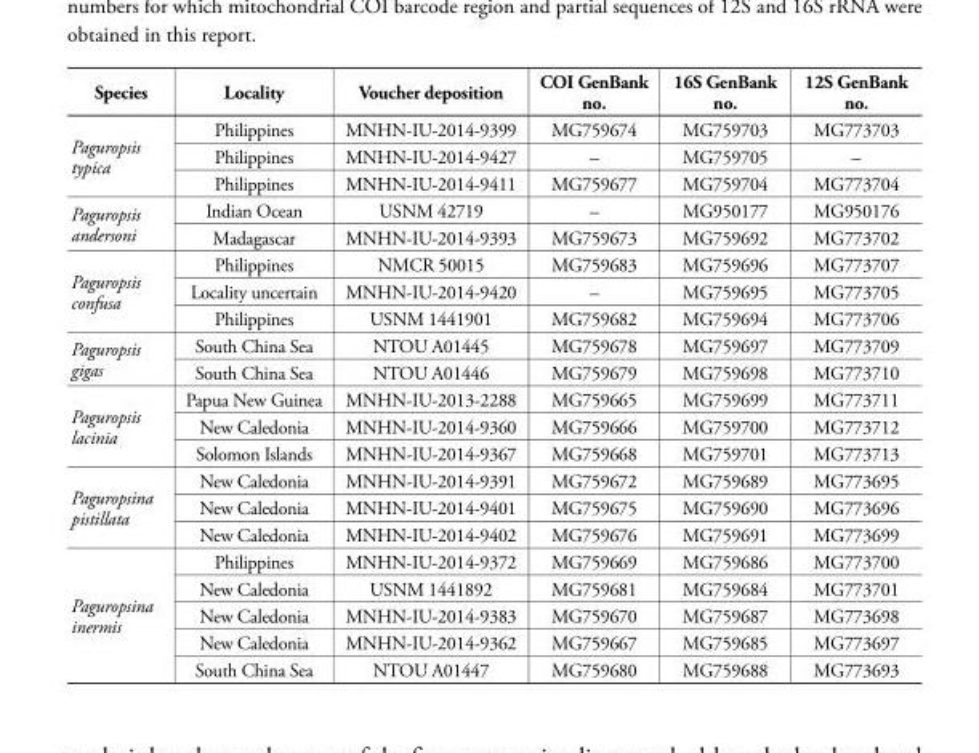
<table><thead><tr><td>Species</td><td>Locality</td><td>Voucher deposition</td><td>COI GenBank no.</td><td>16S GenBank no.</td><td>12S GenBank no.</td></tr></thead><tbody><tr><td rowspan="3">Paguropsis typica</td><td>Philippines</td><td>MNHN-IU-2014-9399</td><td>MG759674</td><td>MG759703</td><td>MG773703</td></tr><tr><td>Philippines</td><td>MNHN-IU-2014-9427</td><td>–</td><td>MG759705</td><td>–</td></tr><tr><td>Philippines</td><td>MNHN-IU-2014-9411</td><td>MG759677</td><td>MG759704</td><td>MG773704</td></tr><tr><td rowspan="2">Paguropsis andersoni</td><td>Indian Ocean</td><td>USNM 42719</td><td>–</td><td>MG950177</td><td>MG950176</td></tr><tr><td>Madagascar</td><td>MNHN-IU-2014-9393</td><td>MG759673</td><td>MG759692</td><td>MG773702</td></tr><tr><td rowspan="3">Paguropsis confusa</td><td>Philippines</td><td>NMCR 50015</td><td>MG759683</td><td>MG759696</td><td>MG773707</td></tr><tr><td>Locality uncertain</td><td>MNHN-IU-2014-9420</td><td>–</td><td>MG759695</td><td>MG773705</td></tr><tr><td>Philippines</td><td>USNM 1441901</td><td>MG759682</td><td>MG759694</td><td>MG773706</td></tr><tr><td rowspan="2">Paguropsis gigas</td><td>South China Sea</td><td>NTOU A01445</td><td>MG759678</td><td>MG759697</td><td>MG773709</td></tr><tr><td>South China Sea</td><td>NTOU A01446</td><td>MG759679</td><td>MG759698</td><td>MG773710</td></tr><tr><td rowspan="3">Paguropsis lacinia</td><td>Papua New Guinea</td><td>MNHN-IU-2013-2288</td><td>MG759665</td><td>MG759699</td><td>MG773711</td></tr><tr><td>New Caledonia</td><td>MNHN-IU-2014-9360</td><td>MG759666</td><td>MG759700</td><td>MG773712</td></tr><tr><td>Solomon Islands</td><td>MNHN-IU-2014-9367</td><td>MG759668</td><td>MG759701</td><td>MG773713</td></tr><tr><td rowspan="3">Paguropsina pistillata</td><td>New Caledonia</td><td>MNHN-IU-2014-9391</td><td>MG759672</td><td>MG759689</td><td>MG773695</td></tr><tr><td>New Caledonia</td><td>MNHN-IU-2014-9401</td><td>MG759675</td><td>MG759690</td><td>MG773696</td></tr><tr><td>New Caledonia</td><td>MNHN-IU-2014-9402</td><td>MG759676</td><td>MG759691</td><td>MG773699</td></tr><tr><td rowspan="5">Paguropsina inermis</td><td>Philippines</td><td>MNHN-IU-2014-9372</td><td>MG759669</td><td>MG759686</td><td>MG773700</td></tr><tr><td>New Caledonia</td><td>USNM 1441892</td><td>MG759681</td><td>MG759684</td><td>MG773701</td></tr><tr><td>New Caledonia</td><td>MNHN-IU-2014-9383</td><td>MG759670</td><td>MG759687</td><td>MG773698</td></tr><tr><td>New Caledonia</td><td>MNHN-IU-2014-9362</td><td>MG759667</td><td>MG759685</td><td>MG773697</td></tr><tr><td>South China Sea</td><td>NTOU A01447</td><td>MG759680</td><td>MG759688</td><td>MG773693</td></tr></tbody></table>